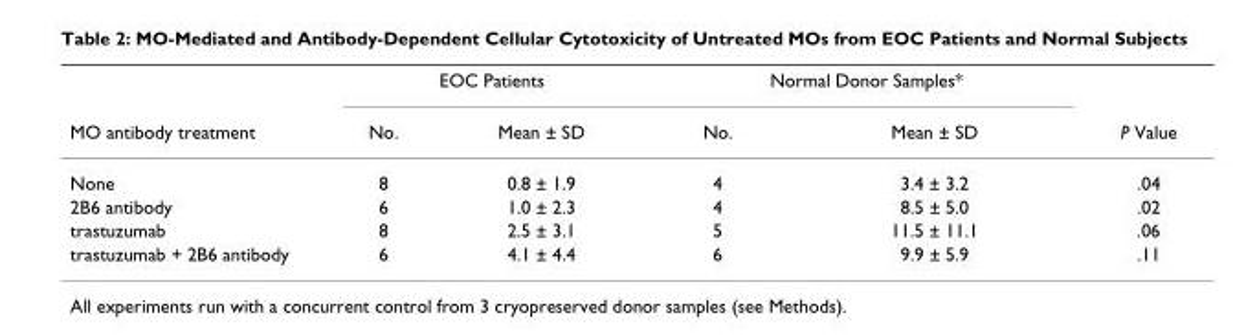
<table><thead><tr><td rowspan="2">MO antibody treatment</td><td colspan="2">EOC Patients</td><td colspan="2">Normal Donor Samples*</td><td rowspan="2">P Value</td></tr><tr><td>No.</td><td>Mean ± SD</td><td>No.</td><td>Mean ± SD</td></tr></thead><tbody><tr><td>None</td><td>8</td><td>0.8 ± 1.9</td><td>4</td><td>3.4 ± 3.2</td><td>.04</td></tr><tr><td>2B6 antibody</td><td>6</td><td>1.0 ± 2.3</td><td>4</td><td>8.5 ± 5.0</td><td>.02</td></tr><tr><td>trastuzumab</td><td>8</td><td>2.5 ± 3.1</td><td>5</td><td>11.5 ± 11.1</td><td>.06</td></tr><tr><td>trastuzumab + 2B6 antibody</td><td>6</td><td>4.1 ± 4.4</td><td>6</td><td>9.9 ± 5.9</td><td>.11</td></tr></tbody></table>